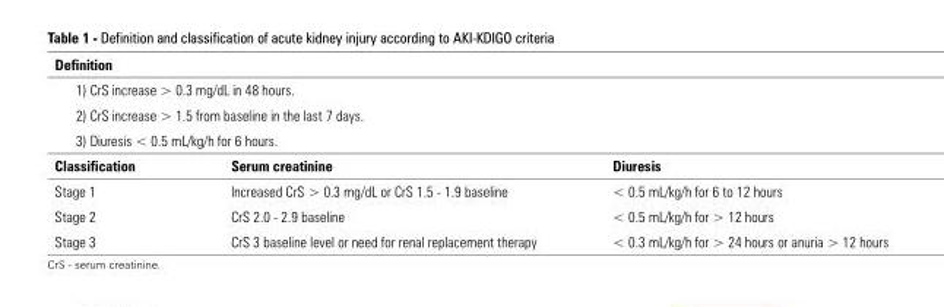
<table><tbody><tr><td colspan="3">Definition</td></tr><tr><td colspan="3">1) CrS increase &gt; 0.3 mg/dL in 48 hours.</td></tr><tr><td colspan="3">2) CrS increase &gt; 1.5 from baseline in the last 7 days.</td></tr><tr><td colspan="3">3) Diuresis &lt; 0.5 mL/kg/h for 6 hours.</td></tr><tr><td>Classification</td><td>Serum creatinine</td><td>Diuresis</td></tr><tr><td>Stage 1</td><td>Increased CrS &gt; 0.3 mg/dL or CrS 1.5 - 1.9 baseline</td><td>&lt; 0.5 mL/kg/h for 6 to 12 hours</td></tr><tr><td>Stage 2</td><td>CrS 2.0 - 2.9 baseline</td><td>&lt; 0.5 mL/kg/h for &gt; 12 hours</td></tr><tr><td>Stage 3</td><td>CrS 3 baseline level or need for renal replacement therapy</td><td>&lt; 0.3 mL/kg/h for &gt; 24 hours or anuria &gt; 12 hours</td></tr></tbody></table>